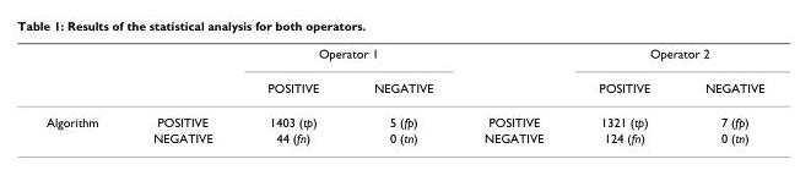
<table><thead><tr><td rowspan="2"></td><td rowspan="2"></td><td colspan="2">Operator 1</td><td rowspan="2"></td><td colspan="2">Operator 2</td></tr><tr><td>POSITIVE</td><td>NEGATIVE</td><td>POSITIVE</td><td>NEGATIVE</td></tr></thead><tbody><tr><td rowspan="2">Algorithm</td><td>POSITIVE</td><td>1403 (tp)</td><td>5 (fp)</td><td>POSITIVE</td><td>1321 (tp)</td><td>7 (fp)</td></tr><tr><td>NEGATIVE</td><td>44 (fn)</td><td>0 (tn)</td><td>NEGATIVE</td><td>124 (fn)</td><td>0 (tn)</td></tr></tbody></table>